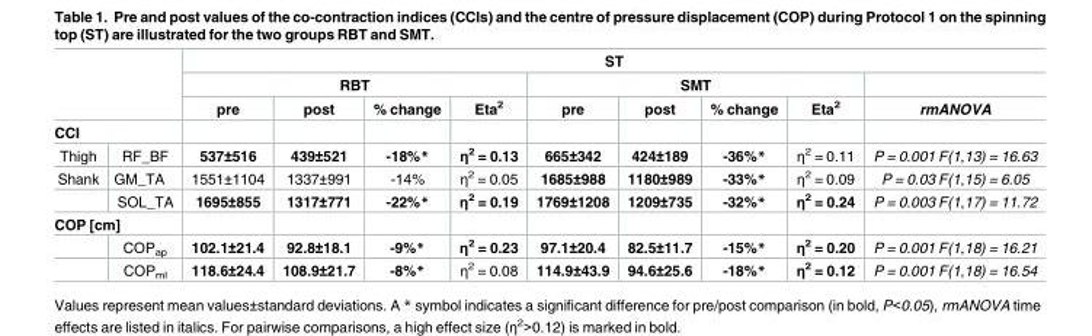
<table><thead><tr><td rowspan="3"></td><td rowspan="3"></td><td colspan="9">ST</td></tr><tr><td colspan="4">RBT</td><td colspan="4">SMT</td><td rowspan="2">rmANOVA</td></tr><tr><td>pre</td><td>post</td><td>% change</td><td>Eta<sup>2</sup></td><td>pre</td><td>post</td><td>% change</td><td>Eta<sup>2</sup></td></tr></thead><tbody><tr><td colspan="11">CCI</td></tr><tr><td>Thigh</td><td>RF_BF</td><td>537±516</td><td>439±521</td><td>-18%*</td><td>η<sup>2</sup> = 0.13</td><td>665±342</td><td>424±189</td><td>-36%*</td><td>η<sup>2</sup> = 0.11</td><td>P = 0.001 F(1,13) = 16.63</td></tr><tr><td rowspan="2">Shank</td><td>GM_TA</td><td>1551±1104</td><td>1337±991</td><td>-14%</td><td>η<sup>2</sup> = 0.05</td><td>1685±988</td><td>1180±989</td><td>-33%*</td><td>η<sup>2</sup> = 0.09</td><td>P = 0.03 F(1,15) = 6.05</td></tr><tr><td>SOL_TA</td><td>1695±855</td><td>1317±771</td><td>-22%*</td><td>η<sup>2</sup> = 0.19</td><td>1769±1208</td><td>1209±735</td><td>-32%*</td><td>η<sup>2</sup> = 0.24</td><td>P = 0.003 F(1,17) = 11.72</td></tr><tr><td colspan="11">COP [cm]</td></tr><tr><td></td><td>COP<sub>ap</sub></td><td>102.1±21.4</td><td>92.8±18.1</td><td>-9%*</td><td>η<sup>2</sup> = 0.23</td><td>97.1±20.4</td><td>82.5±11.7</td><td>-15%*</td><td>η<sup>2</sup> = 0.20</td><td>P = 0.001 F(1,18) = 16.21</td></tr><tr><td></td><td>COP<sub>ml</sub></td><td>118.6±24.4</td><td>108.9±21.7</td><td>-8%*</td><td>η<sup>2</sup> = 0.08</td><td>114.9±43.9</td><td>94.6±25.6</td><td>-18%*</td><td>η<sup>2</sup> = 0.12</td><td>P = 0.001 F(1,18) = 16.54</td></tr></tbody></table>